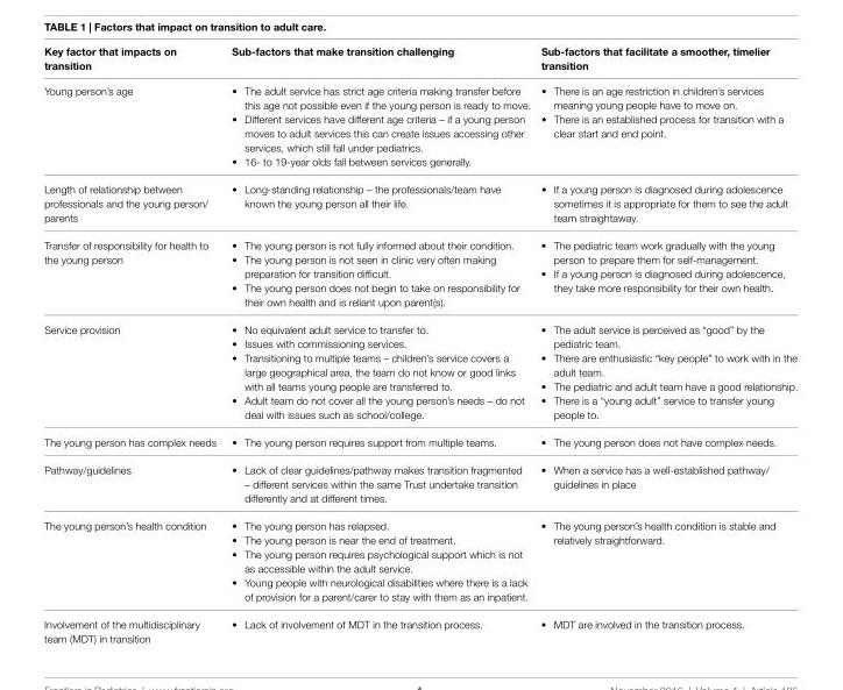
<table><thead><tr><td>Key factor that impacts on transition</td><td>sub-factors that make transition challenging</td><td>sub-factors that facilitate a smoother, timelier transition</td></tr></thead><tbody><tr><td>Young person’s age</td><td>• The adult service has strict age criteria making transfer before this age not possible even if the young person is ready to move. • Different services have different age criteria – if a young person moves to adult services this can create issues accessing other services, which still fall under pediatrics. • 16- to 19-year olds fall between services generally.</td><td>• There is an age restriction in children’s services meaning young people have to move on. • There is an established process for transition with a clear start and end point.</td></tr><tr><td>Length of relationship between professionals and the young person/ parents</td><td>• Long-standing relationship – the professionals/team have known the young person all their life.</td><td>• If a young person is diagnosed during adolescence sometimes it is appropriate for them to see the adult team straightaway.</td></tr><tr><td>Transfer of responsibility for health to the young person</td><td>• The young person is not fully informed about their condition. • The young person is not seen in clinic very often making preparation for transition difficult. • The young person does not begin to take on responsibility for their own health and is reliant upon parent(s).</td><td>• The pediatric team work gradually with the young person to prepare them for self-management. • If a young person is diagnosed during adolescence, they take more responsibility for their own health.</td></tr><tr><td>Service provision</td><td>• No equivalent adult service to transfer to. • Issues with commissioning services. • Transitioning to multiple teams – children’s service covers a large geographical area, the team do not know or good links with all teams young people are transferred to. • Adult team do not cover all the young person’s needs – do not deal with issues such as school/college.</td><td>• The adult service is perceived as “good” by the pediatric team. • There are enthusiastic “key people” to work with in the adult team. • The pediatric and adult team have a good relationship. • There is a “young adult” service to transfer young people to.</td></tr><tr><td>The young person has complex needs</td><td>• The young person requires support from multiple teams.</td><td>• The young person does not have complex needs.</td></tr><tr><td>Pathway/guidelines</td><td>• Lack of clear guidelines/pathway makes transition fragmented – different services within the same Trust undertake transition differently and at different times.</td><td>• When a service has a well-established pathway/ guidelines in place</td></tr><tr><td>The young person’s health condition</td><td>• The young person has relapsed. • The young person is near the end of treatment. • The young person requires psychological support which is not as accessible within the adult service. • Young people with neurological disabilities where there is a lack of provision for a parent/carer to stay with them as an inpatient.</td><td>• The young person’s health condition is stable and relatively straightforward.</td></tr><tr><td>Involvement of the multidisciplinary team (MDT) in transition</td><td>• Lack of involvement of MDT in the transition process.</td><td>• MDT are involved in the transition process.</td></tr></tbody></table>